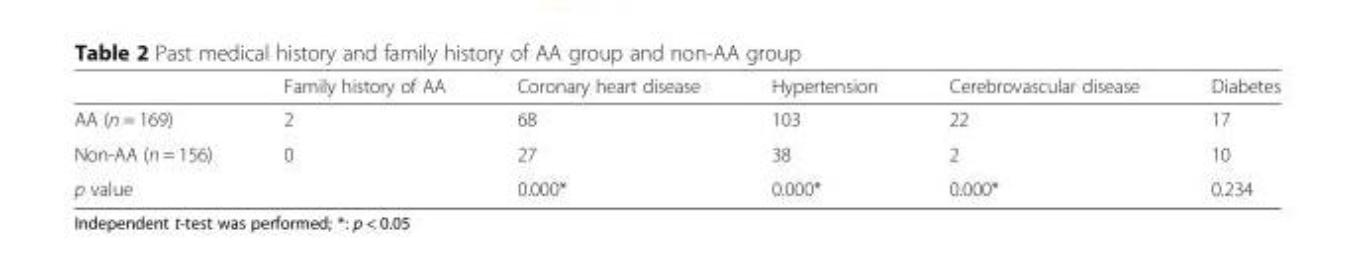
<table><thead><tr><td></td><td>Family history of AA</td><td>Coronary heart disease</td><td>Hypertension</td><td>Cerebrovascular disease</td><td>Diabetes</td></tr></thead><tbody><tr><td>AA (n = 169)</td><td>2</td><td>68</td><td>103</td><td>22</td><td>17</td></tr><tr><td>Non-AA (n = 156)</td><td>0</td><td>27</td><td>38</td><td>2</td><td>10</td></tr><tr><td>p value</td><td></td><td>0.000*</td><td>0.000*</td><td>0.000*</td><td>0.234</td></tr></tbody></table>